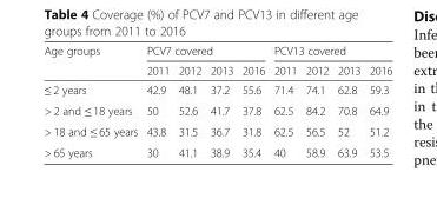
<table><thead><tr><td rowspan="2">Age groups</td><td colspan="4">PCV7 covered</td><td colspan="4">PCV13 covered</td></tr><tr><td>2011</td><td>2012</td><td>2013</td><td>2016</td><td>2011</td><td>2012</td><td>2013</td><td>2016</td></tr></thead><tbody><tr><td>≤ 2 years</td><td>42.9</td><td>48.1</td><td>37.2</td><td>55.6</td><td>71.4</td><td>74.1</td><td>62.8</td><td>59.3</td></tr><tr><td>&gt; 2 and ≤ 18 years</td><td>50</td><td>52.6</td><td>41.7</td><td>37.8</td><td>62.5</td><td>84.2</td><td>70.8</td><td>64.9</td></tr><tr><td>&gt; 18 and ≤ 65 years</td><td>43.8</td><td>31.5</td><td>36.7</td><td>31.8</td><td>62.5</td><td>56.5</td><td>52</td><td>51.2</td></tr><tr><td>&gt; 65 years</td><td>30</td><td>41.1</td><td>38.9</td><td>35.4</td><td>40</td><td>58.9</td><td>63.9</td><td>53.5</td></tr></tbody></table>